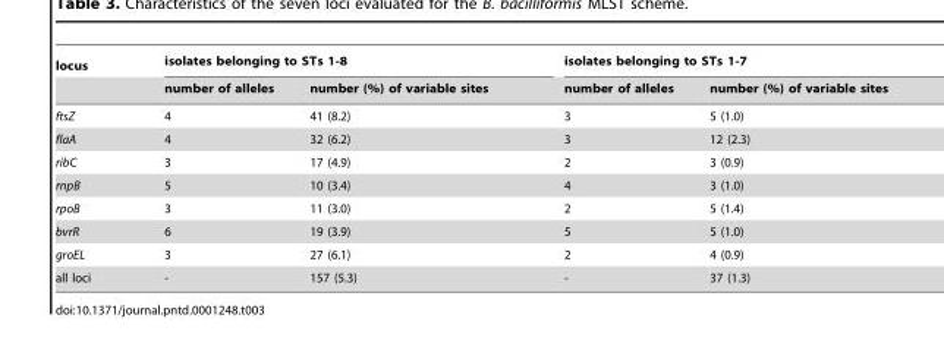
<table><thead><tr><td rowspan="2">locus</td><td colspan="2">isolates belonging to STs 1-8</td><td colspan="2">isolates belonging to STs 1-7</td></tr><tr><td>number of alleles</td><td>number (%) of variable sites</td><td>number of alleles</td><td>number (%) of variable sites</td></tr></thead><tbody><tr><td>ftsZ</td><td>4</td><td>41 (8.2)</td><td>3</td><td>5 (1.0)</td></tr><tr><td>flaA</td><td>4</td><td>32 (6.2)</td><td>3</td><td>12 (2.3)</td></tr><tr><td>ribC</td><td>3</td><td>17 (4.9)</td><td>2</td><td>3 (0.9)</td></tr><tr><td>rnpB</td><td>5</td><td>10 (3.4)</td><td>4</td><td>3 (1.0)</td></tr><tr><td>rpoB</td><td>3</td><td>11 (3.0)</td><td>2</td><td>5 (1.4)</td></tr><tr><td>bvrR</td><td>6</td><td>19 (3.9)</td><td>5</td><td>5 (1.0)</td></tr><tr><td>groEL</td><td>3</td><td>27 (6.1)</td><td>2</td><td>4 (0.9)</td></tr><tr><td>all loci</td><td>-</td><td>157 (5.3)</td><td>-</td><td>37 (1.3)</td></tr></tbody></table>